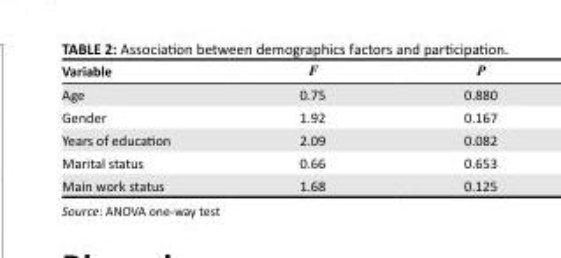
<table><thead><tr><td>Variable</td><td>F</td><td>P</td></tr></thead><tbody><tr><td>Age</td><td>0.75</td><td>0.880</td></tr><tr><td>Gender</td><td>1.92</td><td>0.167</td></tr><tr><td>Years of education</td><td>2.09</td><td>0.082</td></tr><tr><td>Marital status</td><td>0.66</td><td>0.653</td></tr><tr><td>Main work status</td><td>1.68</td><td>0.125</td></tr></tbody></table>